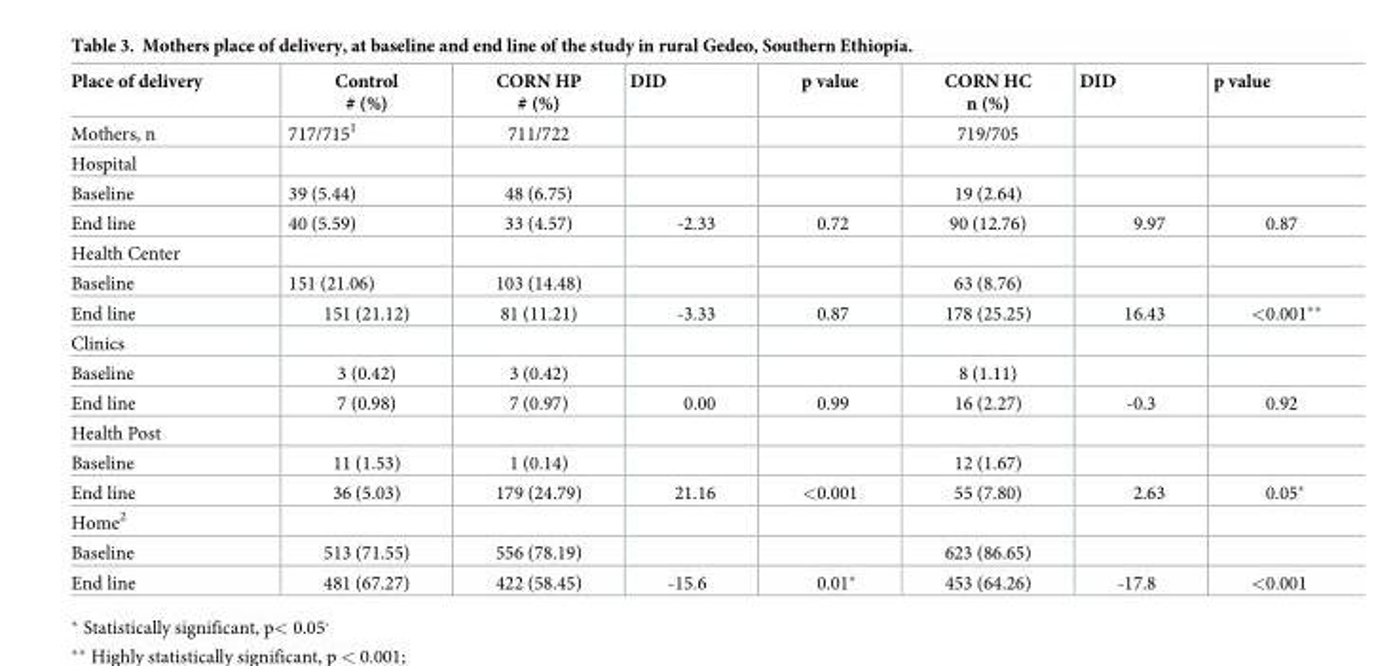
<table><thead><tr><td>Place of delivery</td><td>Control # (%)</td><td>CORN HP # (%)</td><td>DID</td><td>p value</td><td>CORN HC n (%)</td><td>DID</td><td>p value</td></tr></thead><tbody><tr><td>Mothers, n</td><td>717/715<sup>1</sup></td><td>711/722</td><td></td><td></td><td>719/705</td><td></td><td></td></tr><tr><td colspan="8">Hospital</td></tr><tr><td>Baseline</td><td>39 (5.44)</td><td>48 (6.75)</td><td></td><td></td><td>19 (2.64)</td><td></td><td></td></tr><tr><td>End line</td><td>40 (5.59)</td><td>33 (4.57)</td><td>-2.33</td><td>0.72</td><td>90 (12.76)</td><td>9.97</td><td>0.87</td></tr><tr><td colspan="8">Health Center</td></tr><tr><td>Baseline</td><td>151 (21.06)</td><td>103 (14.48)</td><td></td><td></td><td>63 (8.76)</td><td></td><td></td></tr><tr><td>End line</td><td>151 (21.12)</td><td>81 (11.21)</td><td>-3.33</td><td>0.87</td><td>178 (25.25)</td><td>16.43</td><td>&lt;0.001**</td></tr><tr><td colspan="8">Clinics</td></tr><tr><td>Baseline</td><td>3 (0.42)</td><td>3 (0.42)</td><td></td><td></td><td>8 (1.11)</td><td></td><td></td></tr><tr><td>End line</td><td>7 (0.98)</td><td>7 (0.97)</td><td>0.00</td><td>0.99</td><td>16 (2.27)</td><td>-0.3</td><td>0.92</td></tr><tr><td colspan="8">Health Post</td></tr><tr><td>Baseline</td><td>11 (1.53)</td><td>1 (0.14)</td><td></td><td></td><td>12 (1.67)</td><td></td><td></td></tr><tr><td>End line</td><td>36 (5.03)</td><td>179 (24.79)</td><td>21.16</td><td>&lt;0.001</td><td>55 (7.80)</td><td>2.63</td><td>0.05*</td></tr><tr><td colspan="8">Home<sup>2</sup></td></tr><tr><td>Baseline</td><td>513 (71.55)</td><td>556 (78.19)</td><td></td><td></td><td>623 (86.65)</td><td></td><td></td></tr><tr><td>End line</td><td>481 (67.27)</td><td>422 (58.45)</td><td>-15.6</td><td>0.01*</td><td>453 (64.26)</td><td>-17.8</td><td>&lt;0.001</td></tr></tbody></table>